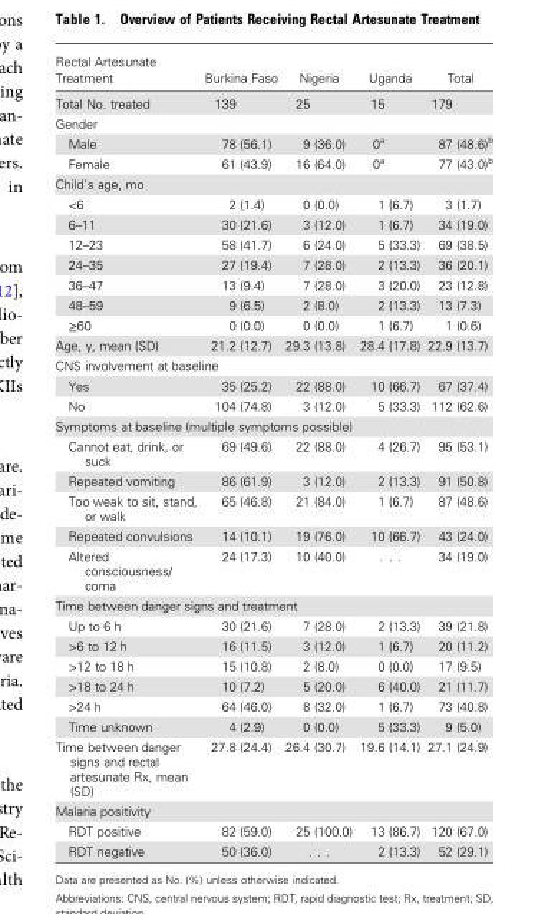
<table><thead><tr><td>Rectal Artesunate Treatment</td><td>Burkina Faso</td><td>Nigeria</td><td>Uganda</td><td>Total</td></tr></thead><tbody><tr><td>Total No. treated</td><td>139</td><td>25</td><td>15</td><td>179</td></tr><tr><td colspan="5">Gender</td></tr><tr><td>Male</td><td>78 (56.1)</td><td>9 (36.0)</td><td>0<sup>a</sup></td><td>87 (48.6)<sup>b</sup></td></tr><tr><td>Female</td><td>61 (43.9)</td><td>16 (64.0)</td><td>0<sup>a</sup></td><td>77 (43.0)<sup>b</sup></td></tr><tr><td colspan="5">Child’s age, mo</td></tr><tr><td>&lt;6</td><td>2 (1.4)</td><td>0 (0.0)</td><td>1 (6.7)</td><td>3 (1.7)</td></tr><tr><td>6–11</td><td>30 (21.6)</td><td>3 (12.0)</td><td>1 (6.7)</td><td>34 (19.0)</td></tr><tr><td>12–23</td><td>58 (41.7)</td><td>6 (24.0)</td><td>5 (33.3)</td><td>69 (38.5)</td></tr><tr><td>24–35</td><td>27 (19.4)</td><td>7 (28.0)</td><td>2 (13.3)</td><td>36 (20.1)</td></tr><tr><td>36–47</td><td>13 (9.4)</td><td>7 (28.0)</td><td>3 (20.0)</td><td>23 (12.8)</td></tr><tr><td>48–59</td><td>9 (6.5)</td><td>2 (8.0)</td><td>2 (13.3)</td><td>13 (7.3)</td></tr><tr><td>≥60</td><td>0 (0.0)</td><td>0 (0.0)</td><td>1 (6.7)</td><td>1 (0.6)</td></tr><tr><td>Age, y, mean (SD)</td><td>21.2 (12.7)</td><td>29.3 (13.8)</td><td>28.4 (17.8)</td><td>22.9 (13.7)</td></tr><tr><td colspan="5">CNS involvement at baseline</td></tr><tr><td>Yes</td><td>35 (25.2)</td><td>22 (88.0)</td><td>10 (66.7)</td><td>67 (37.4)</td></tr><tr><td>No</td><td>104 (74.8)</td><td>3 (12.0)</td><td>5 (33.3)</td><td>112 (62.6)</td></tr><tr><td colspan="5">Symptoms at baseline (multiple symptoms possible)</td></tr><tr><td>Cannot eat, drink, or suck</td><td>69 (49.6)</td><td>22 (88.0)</td><td>4 (26.7)</td><td>95 (53.1)</td></tr><tr><td>Repeated vomiting</td><td>86 (61.9)</td><td>3 (12.0)</td><td>2 (13.3)</td><td>91 (50.8)</td></tr><tr><td>Too weak to sit, stand, or walk</td><td>65 (46.8)</td><td>21 (84.0)</td><td>1 (6.7)</td><td>87 (48.6)</td></tr><tr><td>Repeated convulsions</td><td>14 (10.1)</td><td>19 (76.0)</td><td>10 (66.7)</td><td>43 (24.0)</td></tr><tr><td>Altered consciousness/ coma</td><td>24 (17.3)</td><td>10 (40.0)</td><td>. . .</td><td>34 (19.0)</td></tr><tr><td colspan="5">Time between danger signs and treatment</td></tr><tr><td>Up to 6 h</td><td>30 (21.6)</td><td>7 (28.0)</td><td>2 (13.3)</td><td>39 (21.8)</td></tr><tr><td>&gt;6 to 12 h</td><td>16 (11.5)</td><td>3 (12.0)</td><td>1 (6.7)</td><td>20 (11.2)</td></tr><tr><td>&gt;12 to 18 h</td><td>15 (10.8)</td><td>2 (8.0)</td><td>0 (0.0)</td><td>17 (9.5)</td></tr><tr><td>&gt;18 to 24 h</td><td>10 (7.2)</td><td>5 (20.0)</td><td>6 (40.0)</td><td>21 (11.7)</td></tr><tr><td>&gt;24 h</td><td>64 (46.0)</td><td>8 (32.0)</td><td>1 (6.7)</td><td>73 (40.8)</td></tr><tr><td>Time unknown</td><td>4 (2.9)</td><td>0 (0.0)</td><td>5 (33.3)</td><td>9 (5.0)</td></tr><tr><td>Time between danger signs and rectal artesunate Rx, mean (SD)</td><td>27.8 (24.4)</td><td>26.4 (30.7)</td><td>19.6 (14.1)</td><td>27.1 (24.9)</td></tr><tr><td colspan="5">Malaria positivity</td></tr><tr><td>RDT positive</td><td>82 (59.0)</td><td>25 (100.0)</td><td>13 (86.7)</td><td>120 (67.0)</td></tr><tr><td>RDT negative</td><td>50 (36.0)</td><td>. . .</td><td>2 (13.3)</td><td>52 (29.1)</td></tr></tbody></table>